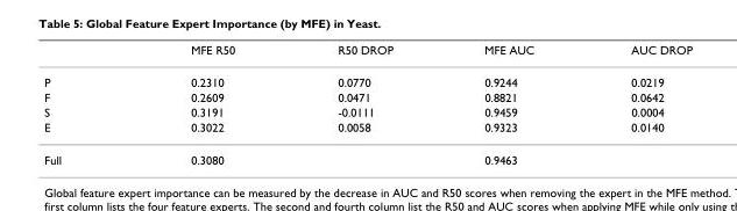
<table><thead><tr><td></td><td>MFE R50</td><td>R50 DROP</td><td>MFE AUC</td><td>AUC DROP</td></tr></thead><tbody><tr><td>P</td><td>0.2310</td><td>0.0770</td><td>0.9244</td><td>0.0219</td></tr><tr><td>F</td><td>0.2609</td><td>0.0471</td><td>0.8821</td><td>0.0642</td></tr><tr><td>S</td><td>0.3191</td><td>-0.0111</td><td>0.9459</td><td>0.0004</td></tr><tr><td>E</td><td>0.3022</td><td>0.0058</td><td>0.9323</td><td>0.0140</td></tr><tr><td>Full</td><td>0.3080</td><td></td><td>0.9463</td><td></td></tr></tbody></table>